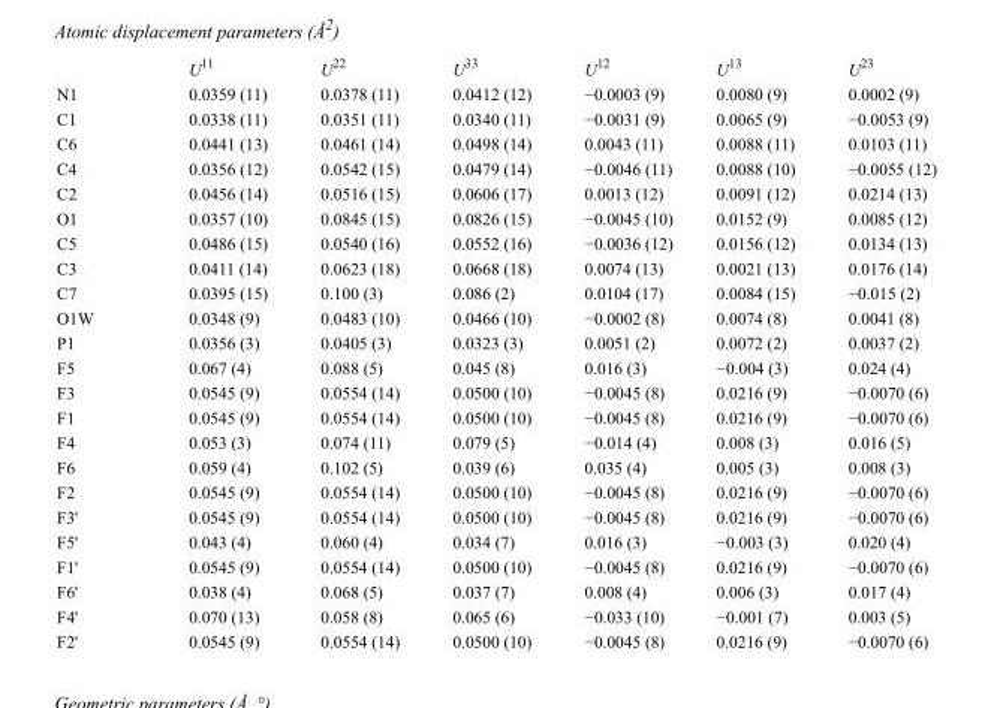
<table><thead><tr><td></td><td>U<sup>11</sup></td><td>U<sup>22</sup></td><td>U<sup>33</sup></td><td>U<sup>12</sup></td><td>U<sup>13</sup></td><td>U<sup>23</sup></td></tr></thead><tbody><tr><td>N1</td><td>0.0359 (11)</td><td>0.0378 (11)</td><td>0.0412 (12)</td><td>−0.0003 (9)</td><td>0.0080 (9)</td><td>0.0002 (9)</td></tr><tr><td>C1</td><td>0.0338 (11)</td><td>0.0351 (11)</td><td>0.0340 (11)</td><td>−0.0031 (9)</td><td>0.0065 (9)</td><td>−0.0053 (9)</td></tr><tr><td>C6</td><td>0.0441 (13)</td><td>0.0461 (14)</td><td>0.0498 (14)</td><td>0.0043 (11)</td><td>0.0088 (11)</td><td>0.0103 (11)</td></tr><tr><td>C4</td><td>0.0356 (12)</td><td>0.0542 (15)</td><td>0.0479 (14)</td><td>−0.0046 (11)</td><td>0.0088 (10)</td><td>−0.0055 (12)</td></tr><tr><td>C2</td><td>0.0456 (14)</td><td>0.0516 (15)</td><td>0.0606 (17)</td><td>0.0013 (12)</td><td>0.0091 (12)</td><td>0.0214 (13)</td></tr><tr><td>O1</td><td>0.0357 (10)</td><td>0.0845 (15)</td><td>0.0826 (15)</td><td>−0.0045 (10)</td><td>0.0152 (9)</td><td>0.0085 (12)</td></tr><tr><td>C5</td><td>0.0486 (15)</td><td>0.0540 (16)</td><td>0.0552 (16)</td><td>−0.0036 (12)</td><td>0.0156 (12)</td><td>0.0134 (13)</td></tr><tr><td>C3</td><td>0.0411 (14)</td><td>0.0623 (18)</td><td>0.0668 (18)</td><td>0.0074 (13)</td><td>0.0021 (13)</td><td>0.0176 (14)</td></tr><tr><td>C7</td><td>0.0395 (15)</td><td>0.100 (3)</td><td>0.086 (2)</td><td>0.0104 (17)</td><td>0.0084 (15)</td><td>−0.015 (2)</td></tr><tr><td>O1W</td><td>0.0348 (9)</td><td>0.0483 (10)</td><td>0.0466 (10)</td><td>−0.0002 (8)</td><td>0.0074 (8)</td><td>0.0041 (8)</td></tr><tr><td>P1</td><td>0.0356 (3)</td><td>0.0405 (3)</td><td>0.0323 (3)</td><td>0.0051 (2)</td><td>0.0072 (2)</td><td>0.0037 (2)</td></tr><tr><td>F5</td><td>0.067 (4)</td><td>0.088 (5)</td><td>0.045 (8)</td><td>0.016 (3)</td><td>−0.004 (3)</td><td>0.024 (4)</td></tr><tr><td>F3</td><td>0.0545 (9)</td><td>0.0554 (14)</td><td>0.0500 (10)</td><td>−0.0045 (8)</td><td>0.0216 (9)</td><td>−0.0070 (6)</td></tr><tr><td>F1</td><td>0.0545 (9)</td><td>0.0554 (14)</td><td>0.0500 (10)</td><td>−0.0045 (8)</td><td>0.0216 (9)</td><td>−0.0070 (6)</td></tr><tr><td>F4</td><td>0.053 (3)</td><td>0.074 (11)</td><td>0.079 (5)</td><td>−0.014 (4)</td><td>0.008 (3)</td><td>0.016 (5)</td></tr><tr><td>F6</td><td>0.059 (4)</td><td>0.102 (5)</td><td>0.039 (6)</td><td>0.035 (4)</td><td>0.005 (3)</td><td>0.008 (3)</td></tr><tr><td>F2</td><td>0.0545 (9)</td><td>0.0554 (14)</td><td>0.0500 (10)</td><td>−0.0045 (8)</td><td>0.0216 (9)</td><td>−0.0070 (6)</td></tr><tr><td>F3&#x27;</td><td>0.0545 (9)</td><td>0.0554 (14)</td><td>0.0500 (10)</td><td>−0.0045 (8)</td><td>0.0216 (9)</td><td>−0.0070 (6)</td></tr><tr><td>F5&#x27;</td><td>0.043 (4)</td><td>0.060 (4)</td><td>0.034 (7)</td><td>0.016 (3)</td><td>−0.003 (3)</td><td>0.020 (4)</td></tr><tr><td>F1&#x27;</td><td>0.0545 (9)</td><td>0.0554 (14)</td><td>0.0500 (10)</td><td>−0.0045 (8)</td><td>0.0216 (9)</td><td>−0.0070 (6)</td></tr><tr><td>F6&#x27;</td><td>0.038 (4)</td><td>0.068 (5)</td><td>0.037 (7)</td><td>0.008 (4)</td><td>0.006 (3)</td><td>0.017 (4)</td></tr><tr><td>F4&#x27;</td><td>0.070 (13)</td><td>0.058 (8)</td><td>0.065 (6)</td><td>−0.033 (10)</td><td>−0.001 (7)</td><td>0.003 (5)</td></tr><tr><td>F2&#x27;</td><td>0.0545 (9)</td><td>0.0554 (14)</td><td>0.0500 (10)</td><td>−0.0045 (8)</td><td>0.0216 (9)</td><td>−0.0070 (6)</td></tr></tbody></table>